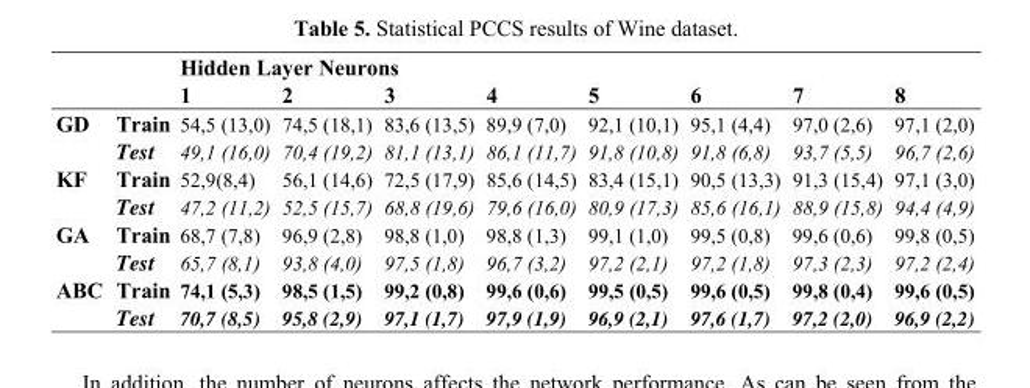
<table><thead><tr><td rowspan="2"></td><td rowspan="2"></td><td colspan="8">Hidden Layer Neurons</td></tr><tr><td>1</td><td>2</td><td>3</td><td>4</td><td>5</td><td>6</td><td>7</td><td>8</td></tr></thead><tbody><tr><td rowspan="2">GD</td><td>Train</td><td>54,5 (13,0)</td><td>74,5 (18,1)</td><td>83,6 (13,5)</td><td>89,9 (7,0)</td><td>92,1 (10,1)</td><td>95,1 (4,4)</td><td>97,0 (2,6)</td><td>97,1 (2,0)</td></tr><tr><td>Test</td><td>49,1 (16,0)</td><td>70,4 (19,2)</td><td>81,1 (13,1)</td><td>86,1 (11,7)</td><td>91,8 (10,8)</td><td>91,8 (6,8)</td><td>93,7 (5,5)</td><td>96,7 (2,6)</td></tr><tr><td rowspan="2">KF</td><td>Train</td><td>52,9(8,4)</td><td>56,1 (14,6)</td><td>72,5 (17,9)</td><td>85,6 (14,5)</td><td>83,4 (15,1)</td><td>90,5 (13,3)</td><td>91,3 (15,4)</td><td>97,1 (3,0)</td></tr><tr><td>Test</td><td>47,2 (11,2)</td><td>52,5 (15,7)</td><td>68,8 (19,6)</td><td>79,6 (16,0)</td><td>80,9 (17,3)</td><td>85,6 (16,1)</td><td>88,9 (15,8)</td><td>94,4 (4,9)</td></tr><tr><td rowspan="2">GA</td><td>Train</td><td>68,7 (7,8)</td><td>96,9 (2,8)</td><td>98,8 (1,0)</td><td>98,8 (1,3)</td><td>99,1 (1,0)</td><td>99,5 (0,8)</td><td>99,6 (0,6)</td><td>99,8 (0,5)</td></tr><tr><td>Test</td><td>65,7 (8,1)</td><td>93,8 (4,0)</td><td>97,5 (1,8)</td><td>96,7 (3,2)</td><td>97,2 (2,1)</td><td>97,2 (1,8)</td><td>97,3 (2,3)</td><td>97,2 (2,4)</td></tr><tr><td rowspan="2">ABC</td><td>Train</td><td>74,1 (5,3)</td><td>98,5 (1,5)</td><td>99,2 (0,8)</td><td>99,6 (0,6)</td><td>99,5 (0,5)</td><td>99,6 (0,5)</td><td>99,8 (0,4)</td><td>99,6 (0,5)</td></tr><tr><td>Test</td><td>70,7 (8,5)</td><td>95,8 (2,9)</td><td>97,1 (1,7)</td><td>97,9 (1,9)</td><td>96,9 (2,1)</td><td>97,6 (1,7)</td><td>97,2 (2,0)</td><td>96,9 (2,2)</td></tr></tbody></table>